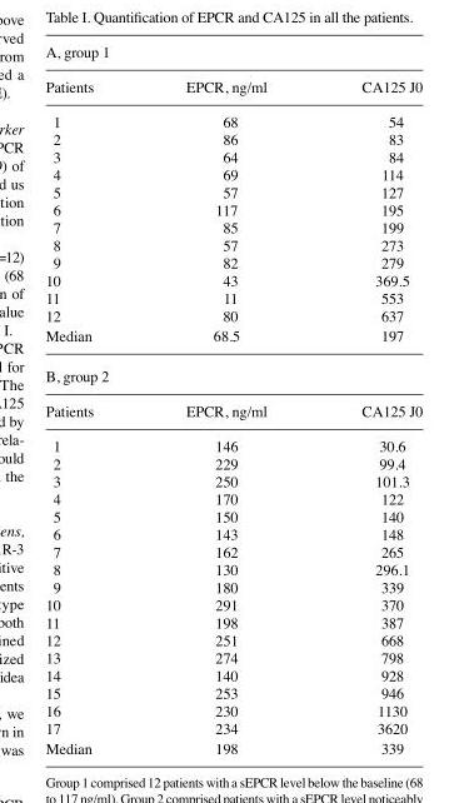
<table><tbody><tr><td colspan="3">A, group 1</td></tr><tr><td>Patients</td><td>EPCR, ng/ml</td><td>CA125 J0</td></tr><tr><td>1</td><td>68</td><td>54</td></tr><tr><td>2</td><td>86</td><td>83</td></tr><tr><td>3</td><td>64</td><td>84</td></tr><tr><td>4</td><td>69</td><td>114</td></tr><tr><td>5</td><td>57</td><td>127</td></tr><tr><td>6</td><td>117</td><td>195</td></tr><tr><td>7</td><td>85</td><td>199</td></tr><tr><td>8</td><td>57</td><td>273</td></tr><tr><td>9</td><td>82</td><td>279</td></tr><tr><td>10</td><td>43</td><td>369.5</td></tr><tr><td>11</td><td>11</td><td>553</td></tr><tr><td>12</td><td>80</td><td>637</td></tr><tr><td>Median</td><td>68.5</td><td>197</td></tr><tr><td colspan="3">B, group 2</td></tr><tr><td>Patients</td><td>EPCR, ng/ml</td><td>CA125 J0</td></tr><tr><td>1</td><td>146</td><td>30.6</td></tr><tr><td>2</td><td>229</td><td>99.4</td></tr><tr><td>3</td><td>250</td><td>101.3</td></tr><tr><td>4</td><td>170</td><td>122</td></tr><tr><td>5</td><td>150</td><td>140</td></tr><tr><td>6</td><td>143</td><td>148</td></tr><tr><td>7</td><td>162</td><td>265</td></tr><tr><td>8</td><td>130</td><td>296.1</td></tr><tr><td>9</td><td>180</td><td>339</td></tr><tr><td>10</td><td>291</td><td>370</td></tr><tr><td>11</td><td>198</td><td>387</td></tr><tr><td>12</td><td>251</td><td>668</td></tr><tr><td>13</td><td>274</td><td>798</td></tr><tr><td>14</td><td>140</td><td>928</td></tr><tr><td>15</td><td>253</td><td>946</td></tr><tr><td>16</td><td>230</td><td>1130</td></tr><tr><td>17</td><td>234</td><td>3620</td></tr><tr><td>Median</td><td>198</td><td>339</td></tr></tbody></table>